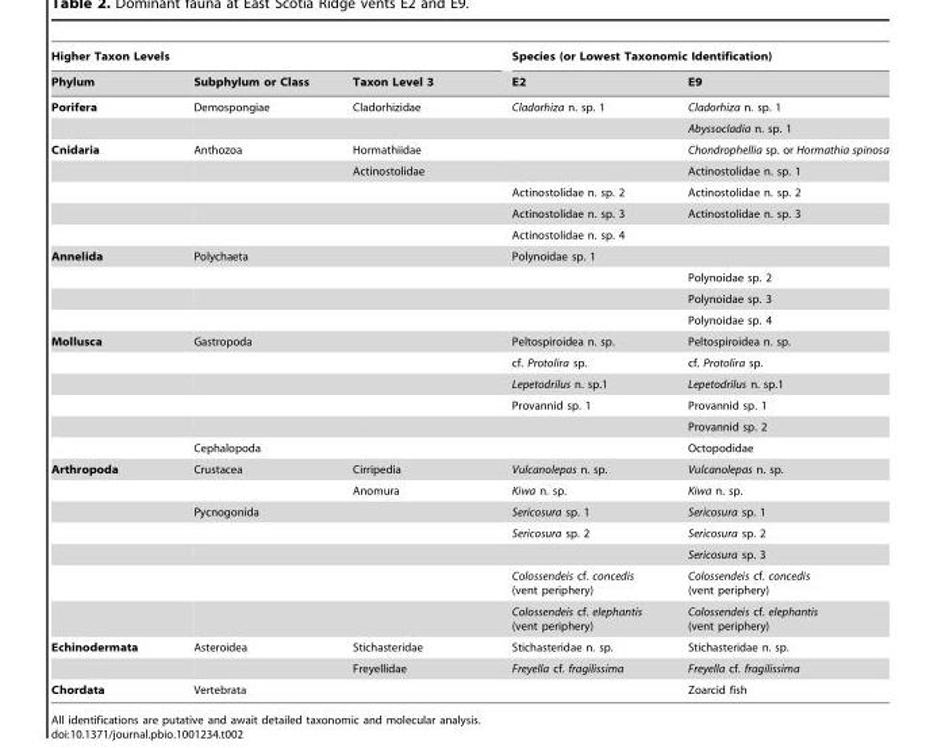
<table><thead><tr><td colspan="3">Higher Taxon Levels</td><td colspan="2">Species (or Lowest Taxonomic Identification)</td></tr><tr><td>Phylum</td><td>Subphylum or Class</td><td>Taxon Level 3</td><td>E2</td><td>E9</td></tr></thead><tbody><tr><td rowspan="2">Porifera</td><td>Demospongiae</td><td>Cladorhizidae</td><td>Cladorhiza n. sp. 1</td><td>Cladorhiza n. sp. 1</td></tr><tr><td></td><td></td><td></td><td>Abyssocladia n. sp. 1</td></tr><tr><td rowspan="5">Cnidaria</td><td>Anthozoa</td><td>Hormathiidae</td><td></td><td>Chondrophellia sp. or Hormathia spinosa</td></tr><tr><td></td><td>Actinostolidae</td><td></td><td>Actinostolidae n. sp. 1</td></tr><tr><td></td><td></td><td>Actinostolidae n. sp. 2</td><td>Actinostolidae n. sp. 2</td></tr><tr><td></td><td></td><td>Actinostolidae n. sp. 3</td><td>Actinostolidae n. sp. 3</td></tr><tr><td></td><td></td><td>Actinostolidae n. sp. 4</td><td></td></tr><tr><td rowspan="4">Annelida</td><td>Polychaeta</td><td></td><td>Polynoidae sp. 1</td><td></td></tr><tr><td></td><td></td><td></td><td>Polynoidae sp. 2</td></tr><tr><td></td><td></td><td></td><td>Polynoidae sp. 3</td></tr><tr><td></td><td></td><td></td><td>Polynoidae sp. 4</td></tr><tr><td rowspan="6">Mollusca</td><td>Gastropoda</td><td></td><td>Peltospiroidea n. sp.</td><td>Peltospiroidea n. sp.</td></tr><tr><td></td><td></td><td>cf. Protolira sp.</td><td>cf. Protolira sp.</td></tr><tr><td></td><td></td><td>Lepetodrilus n. sp.1</td><td>Lepetodrilus n. sp.1</td></tr><tr><td></td><td></td><td>Provannid sp. 1</td><td>Provannid sp. 1</td></tr><tr><td></td><td></td><td></td><td>Provannid sp. 2</td></tr><tr><td>Cephalopoda</td><td></td><td></td><td>Octopodidae</td></tr><tr><td rowspan="7">Arthropoda</td><td>Crustacea</td><td>Cirripedia</td><td>Vulcanolepas n. sp.</td><td>Vulcanolepas n. sp.</td></tr><tr><td></td><td>Anomura</td><td>Kiwa n. sp.</td><td>Kiwa n. sp.</td></tr><tr><td>Pycnogonida</td><td></td><td>Sericosura sp. 1</td><td>Sericosura sp. 1</td></tr><tr><td></td><td></td><td>Sericosura sp. 2</td><td>Sericosura sp. 2</td></tr><tr><td></td><td></td><td></td><td>Sericosura sp. 3</td></tr><tr><td></td><td></td><td>Colossendeis cf. concedis (vent periphery)</td><td>Colossendeis cf. concedis (vent periphery)</td></tr><tr><td></td><td></td><td>Colossendeis cf. elephantis (vent periphery)</td><td>Colossendeis cf. elephantis (vent periphery)</td></tr><tr><td rowspan="2">Echinodermata</td><td>Asteroidea</td><td>Stichasteridae</td><td>Stichasteridae n. sp.</td><td>Stichasteridae n. sp.</td></tr><tr><td></td><td>Freyellidae</td><td>Freyella cf. fragilissima</td><td>Freyella cf. fragilissima</td></tr><tr><td>Chordata</td><td>Vertebrata</td><td></td><td></td><td>Zoarcid fish</td></tr></tbody></table>